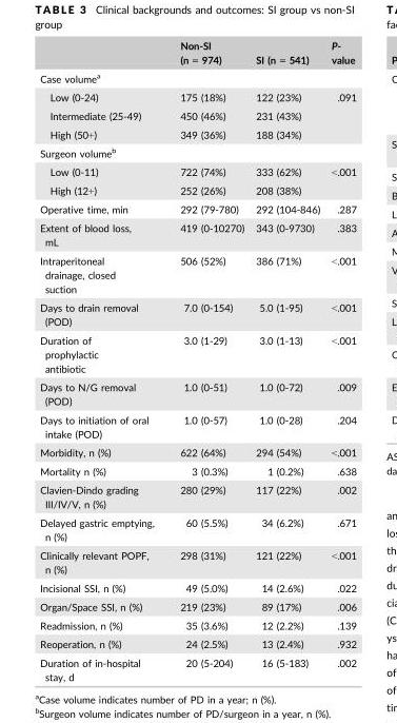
<table><thead><tr><td></td><td>Non-SI (n = 974)</td><td>SI (n = 541)</td><td>P- value</td></tr></thead><tbody><tr><td colspan="4">Case volume<sup>a</sup></td></tr><tr><td>Low (0-24)</td><td>175 (18%)</td><td>122 (23%)</td><td>.091</td></tr><tr><td>Intermediate (25-49)</td><td>450 (46%)</td><td>231 (43%)</td><td></td></tr><tr><td>High (50+)</td><td>349 (36%)</td><td>188 (34%)</td><td></td></tr><tr><td colspan="4">Surgeon volume<sup>b</sup></td></tr><tr><td>Low (0-11)</td><td>722 (74%)</td><td>333 (62%)</td><td>&lt;.001</td></tr><tr><td>High (12+)</td><td>252 (26%)</td><td>208 (38%)</td><td></td></tr><tr><td>Operative time, min</td><td>292 (79-780)</td><td>292 (104-846)</td><td>.287</td></tr><tr><td>Extent of blood loss, mL</td><td>419 (0-10270)</td><td>343 (0-9730)</td><td>.383</td></tr><tr><td>Intraperitoneal drainage, closed suction</td><td>506 (52%)</td><td>386 (71%)</td><td>&lt;.001</td></tr><tr><td>Days to drain removal (POD)</td><td>7.0 (0-154)</td><td>5.0 (1-95)</td><td>&lt;.001</td></tr><tr><td>Duration of prophylactic antibiotic</td><td>3.0 (1-29)</td><td>3.0 (1-13)</td><td>&lt;.001</td></tr><tr><td>Days to N/G removal (POD)</td><td>1.0 (0-51)</td><td>1.0 (0-72)</td><td>.009</td></tr><tr><td>Days to initiation of oral intake (POD)</td><td>1.0 (0-57)</td><td>1.0 (0-28)</td><td>.204</td></tr><tr><td>Morbidity, n (%)</td><td>622 (64%)</td><td>294 (54%)</td><td>&lt;.001</td></tr><tr><td>Mortality n (%)</td><td>3 (0.3%)</td><td>1 (0.2%)</td><td>.638</td></tr><tr><td>Clavien-Dindo grading III/IV/V, n (%)</td><td>280 (29%)</td><td>117 (22%)</td><td>.002</td></tr><tr><td>Delayed gastric emptying, n (%)</td><td>60 (5.5%)</td><td>34 (6.2%)</td><td>.671</td></tr><tr><td>Clinically relevant POPF, n (%)</td><td>298 (31%)</td><td>121 (22%)</td><td>&lt;.001</td></tr><tr><td>Incisional SSI, n (%)</td><td>49 (5.0%)</td><td>14 (2.6%)</td><td>.022</td></tr><tr><td>Organ/Space SSI, n (%)</td><td>219 (23%)</td><td>89 (17%)</td><td>.006</td></tr><tr><td>Readmission, n (%)</td><td>35 (3.6%)</td><td>12 (2.2%)</td><td>.139</td></tr><tr><td>Reoperation, n (%)</td><td>24 (2.5%)</td><td>13 (2.4%)</td><td>.932</td></tr><tr><td>Duration of in-hospital stay, d</td><td>20 (5-204)</td><td>16 (5-183)</td><td>.002</td></tr></tbody></table>